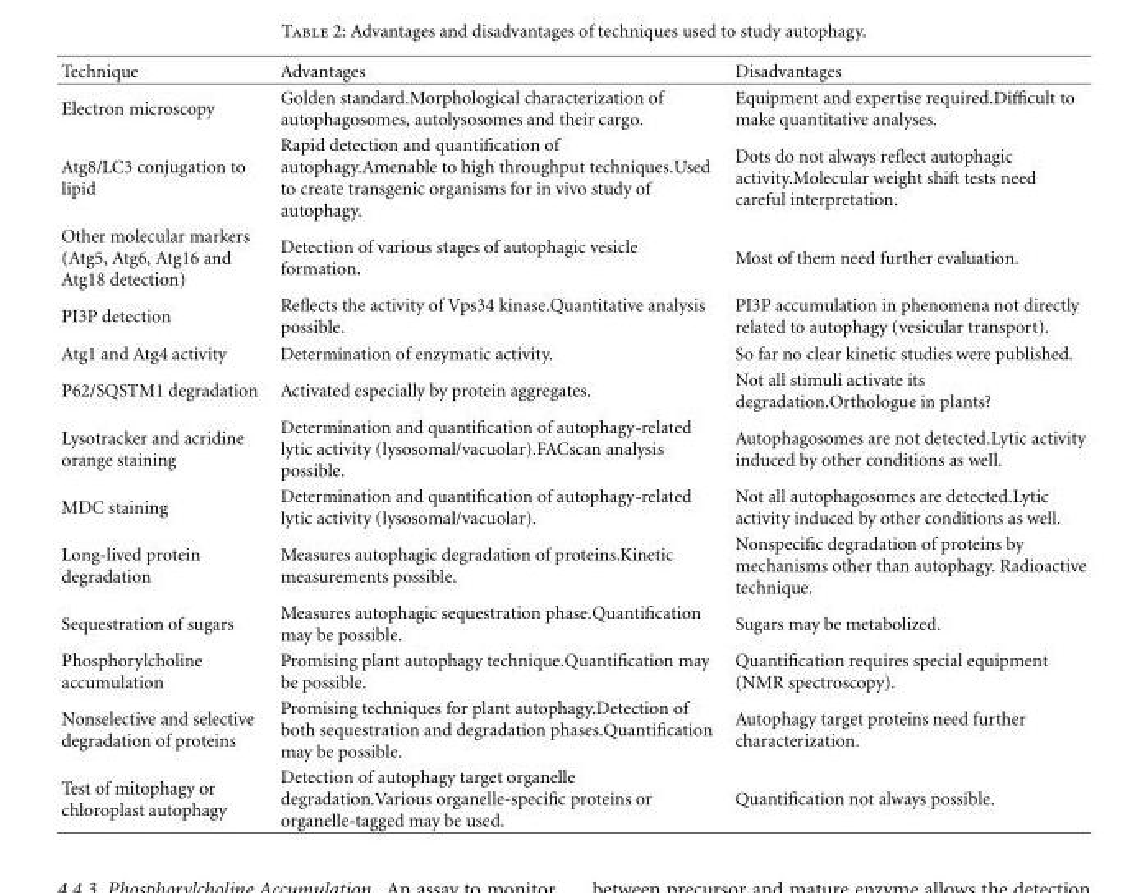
<table><thead><tr><td>Technique</td><td>Advantages</td><td>Disadvantages</td></tr></thead><tbody><tr><td>Electron microscopy</td><td>Golden standard.Morphological characterization of autophagosomes, autolysosomes and their cargo.</td><td>Equipment and expertise required.Difficult to make quantitative analyses.</td></tr><tr><td>Atg8/LC3 conjugation to lipid</td><td>Rapid detection and quantification of autophagy.Amenable to high throughput techniques.Used to create transgenic organisms for in vivo study of autophagy.</td><td>Dots do not always reflect autophagic activity.Molecular weight shift tests need careful interpretation.</td></tr><tr><td>Other molecular markers (Atg5, Atg6, Atg16 and Atg18 detection)</td><td>Detection of various stages of autophagic vesicle formation.</td><td>Most of them need further evaluation.</td></tr><tr><td>PI3P detection</td><td>Reflects the activity of Vps34 kinase.Quantitative analysis possible.</td><td>PI3P accumulation in phenomena not directly related to autophagy (vesicular transport).</td></tr><tr><td>Atg1 and Atg4 activity</td><td>Determination of enzymatic activity.</td><td>So far no clear kinetic studies were published.</td></tr><tr><td>P62/SQSTM1 degradation</td><td>Activated especially by protein aggregates.</td><td>Not all stimuli activate its degradation.Orthologue in plants?</td></tr><tr><td>Lysotracker and acridine orange staining</td><td>Determination and quantification of autophagy-related lytic activity (lysosomal/vacuolar).FACscan analysis possible.</td><td>Autophagosomes are not detected.Lytic activity induced by other conditions as well.</td></tr><tr><td>MDC staining</td><td>Determination and quantification of autophagy-related lytic activity (lysosomal/vacuolar).</td><td>Not all autophagosomes are detected.Lytic activity induced by other conditions as well.</td></tr><tr><td>Long-lived protein degradation</td><td>Measures autophagic degradation of proteins.Kinetic measurements possible.</td><td>Nonspecific degradation of proteins by mechanisms other than autophagy. Radioactive technique.</td></tr><tr><td>Sequestration of sugars</td><td>Measures autophagic sequestration phase.Quantification may be possible.</td><td>Sugars may be metabolized.</td></tr><tr><td>Phosphorylcholine accumulation</td><td>Promising plant autophagy technique.Quantification may be possible.</td><td>Quantification requires special equipment (NMR spectroscopy).</td></tr><tr><td>Nonselective and selective degradation of proteins</td><td>Promising techniques for plant autophagy.Detection of both sequestration and degradation phases.Quantification may be possible.</td><td>Autophagy target proteins need further characterization.</td></tr><tr><td>Test of mitophagy or chloroplast autophagy</td><td>Detection of autophagy target organelle degradation.Various organelle-specific proteins or organelle-tagged may be used.</td><td>Quantification not always possible.</td></tr></tbody></table>